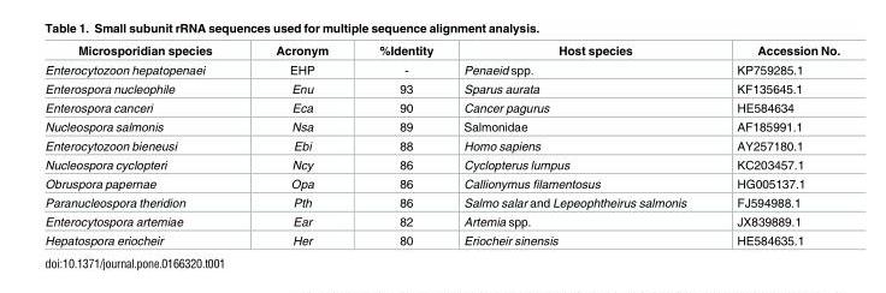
<table><thead><tr><td>Microsporidian species</td><td>Acronym</td><td>%Identity</td><td>Host species</td><td>Accession No.</td></tr></thead><tbody><tr><td>Enterocytozoon hepatopenaei</td><td>EHP</td><td>-</td><td>Penaeid spp.</td><td>KP759285.1</td></tr><tr><td>Enterospora nucleophile</td><td>Enu</td><td>93</td><td>Sparus aurata</td><td>KF135645.1</td></tr><tr><td>Enterospora canceri</td><td>Eca</td><td>90</td><td>Cancer pagurus</td><td>HE584634</td></tr><tr><td>Nucleospora salmonis</td><td>Nsa</td><td>89</td><td>Salmonidae</td><td>AF185991.1</td></tr><tr><td>Enterocytozoon bieneusi</td><td>Ebi</td><td>88</td><td>Homo sapiens</td><td>AY257180.1</td></tr><tr><td>Nucleospora cyclopteri</td><td>Ncy</td><td>86</td><td>Cyclopterus lumpus</td><td>KC203457.1</td></tr><tr><td>Obruspora papernae</td><td>Opa</td><td>86</td><td>Callionymus filamentosus</td><td>HG005137.1</td></tr><tr><td>Paranucleospora theridion</td><td>Pth</td><td>86</td><td>Salmo salar and Lepeophtheirus salmonis</td><td>FJ594988.1</td></tr><tr><td>Enterocytospora artemiae</td><td>Ear</td><td>82</td><td>Artemia spp.</td><td>JX839889.1</td></tr><tr><td>Hepatospora eriocheir</td><td>Her</td><td>80</td><td>Eriocheir sinensis</td><td>HE584635.1</td></tr></tbody></table>